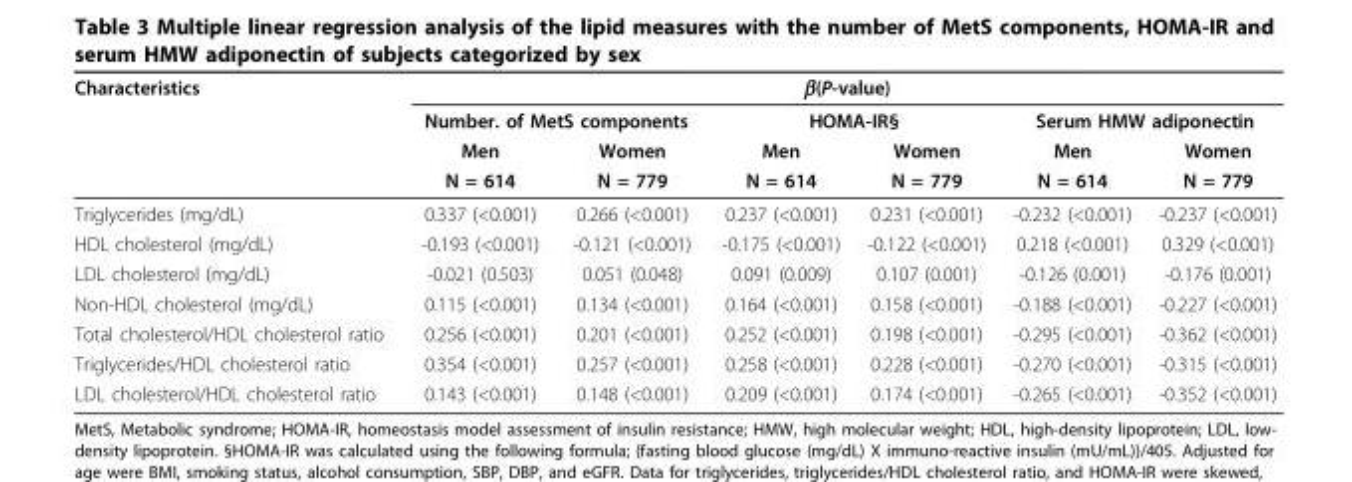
<table><thead><tr><td rowspan="4">Characteristics</td><td colspan="6">β(P-value)</td></tr><tr><td colspan="2">Number. of MetS components</td><td colspan="2">HOMA-IR§</td><td colspan="2">Serum HMW adiponectin</td></tr><tr><td rowspan="2">Men N = 614</td><td rowspan="2">Women N = 779</td><td rowspan="2">Men N = 614</td><td rowspan="2">Women N = 779</td><td rowspan="2">Men N = 614</td><td rowspan="2">Women N = 779</td></tr><tr></tr></thead><tbody><tr><td>Triglycerides (mg/dL)</td><td>0.337 (&lt;0.001)</td><td>0.266 (&lt;0.001)</td><td>0.237 (&lt;0.001)</td><td>0.231 (&lt;0.001)</td><td>-0.232 (&lt;0.001)</td><td>-0.237 (&lt;0.001)</td></tr><tr><td>HDL cholesterol (mg/dL)</td><td>-0.193 (&lt;0.001)</td><td>-0.121 (&lt;0.001)</td><td>-0.175 (&lt;0.001)</td><td>-0.122 (&lt;0.001)</td><td>0.218 (&lt;0.001)</td><td>0.329 (&lt;0.001)</td></tr><tr><td>LDL cholesterol (mg/dL)</td><td>-0.021 (0.503)</td><td>0.051 (0.048)</td><td>0.091 (0.009)</td><td>0.107 (0.001)</td><td>-0.126 (0.001)</td><td>-0.176 (0.001)</td></tr><tr><td>Non-HDL cholesterol (mg/dL)</td><td>0.115 (&lt;0.001)</td><td>0.134 (&lt;0.001)</td><td>0.164 (&lt;0.001)</td><td>0.158 (&lt;0.001)</td><td>-0.188 (&lt;0.001)</td><td>-0.227 (&lt;0.001)</td></tr><tr><td>Total cholesterol/HDL cholesterol ratio</td><td>0.256 (&lt;0.001)</td><td>0.201 (&lt;0.001)</td><td>0.252 (&lt;0.001)</td><td>0.198 (&lt;0.001)</td><td>-0.295 (&lt;0.001)</td><td>-0.362 (&lt;0.001)</td></tr><tr><td>Triglycerides/HDL cholesterol ratio</td><td>0.354 (&lt;0.001)</td><td>0.257 (&lt;0.001)</td><td>0.258 (&lt;0.001)</td><td>0.228 (&lt;0.001)</td><td>-0.270 (&lt;0.001)</td><td>-0.315 (&lt;0.001)</td></tr><tr><td>LDL cholesterol/HDL cholesterol ratio</td><td>0.143 (&lt;0.001)</td><td>0.148 (&lt;0.001)</td><td>0.209 (&lt;0.001)</td><td>0.174 (&lt;0.001)</td><td>-0.265 (&lt;0.001)</td><td>-0.352 (&lt;0.001)</td></tr></tbody></table>